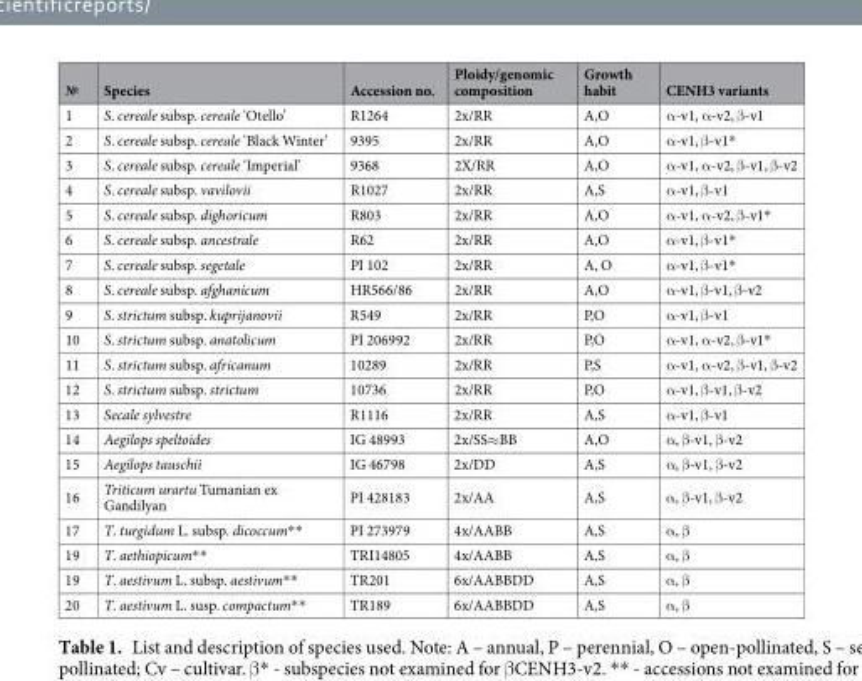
<table><thead><tr><td>№</td><td>Species</td><td>Accession no.</td><td>Ploidy/genomic composition</td><td>Growth habit</td><td>CENH3 variants</td></tr></thead><tbody><tr><td>1</td><td>S. cereale subsp. cereale ‘Otello’</td><td>R1264</td><td>2x/RR</td><td>A,O</td><td>α-v1, α-v2, β-v1</td></tr><tr><td>2</td><td>S. cereale subsp. cereale ‘Black Winter’</td><td>9395</td><td>2x/RR</td><td>A,O</td><td>α-v1, β-v1*</td></tr><tr><td>3</td><td>S. cereale subsp. cereale ‘Imperial’</td><td>9368</td><td>2X/RR</td><td>A,O</td><td>α-v1, α-v2, β-v1, β-v2</td></tr><tr><td>4</td><td>S. cereale subsp. vavilovii</td><td>R1027</td><td>2x/RR</td><td>A,S</td><td>α-v1, β-v1</td></tr><tr><td>5</td><td>S. cereale subsp. dighoricum</td><td>R803</td><td>2x/RR</td><td>A,O</td><td>α-v1, α-v2, β-v1*</td></tr><tr><td>6</td><td>S. cereale subsp. ancestrale</td><td>R62</td><td>2x/RR</td><td>A,O</td><td>α-v1, β-v1*</td></tr><tr><td>7</td><td>S. cereale subsp. segetale</td><td>PI 102</td><td>2x/RR</td><td>A, O</td><td>α-v1, β-v1*</td></tr><tr><td>8</td><td>S. cereale subsp. afghanicum</td><td>HR566/86</td><td>2x/RR</td><td>A,O</td><td>α-v1, β-v1, β-v2</td></tr><tr><td>9</td><td>S. strictum subsp. kuprijanovii</td><td>R549</td><td>2x/RR</td><td>P,O</td><td>α-v1, β-v1</td></tr><tr><td>10</td><td>S. strictum subsp. anatolicum</td><td>PI 206992</td><td>2x/RR</td><td>P,O</td><td>α-v1, α-v2, β-v1*</td></tr><tr><td>11</td><td>S. strictum subsp. africanum</td><td>10289</td><td>2x/RR</td><td>P,S</td><td>α-v1, α-v2, β-v1, β-v2</td></tr><tr><td>12</td><td>S. strictum subsp. strictum</td><td>10736</td><td>2x/RR</td><td>P,O</td><td>α-v1, β-v1, β-v2</td></tr><tr><td>13</td><td>Secale sylvestre</td><td>R1116</td><td>2x/RR</td><td>A,S</td><td>α-v1, β-v1</td></tr><tr><td>14</td><td>Aegilops speltoides</td><td>IG 48993</td><td>2x/SS≈BB</td><td>A,O</td><td>α, β-v1, β-v2</td></tr><tr><td>15</td><td>Aegilops tauschii</td><td>IG 46798</td><td>2x/DD</td><td>A,S</td><td>α, β-v1, β-v2</td></tr><tr><td>16</td><td>Triticum urartu Tumanian ex Gandilyan</td><td>PI 428183</td><td>2x/AA</td><td>A,S</td><td>α, β-v1, β-v2</td></tr><tr><td>17</td><td>T. turgidum L. subsp. dicoccum**</td><td>PI 273979</td><td>4x/AABB</td><td>A,S</td><td>α, β</td></tr><tr><td>19</td><td>T. aethiopicum**</td><td>TRI14805</td><td>4x/AABB</td><td>A,S</td><td>α, β</td></tr><tr><td>19</td><td>T. aestivum L. subsp. aestivum**</td><td>TR201</td><td>6x/AABBDD</td><td>A,S</td><td>α, β</td></tr><tr><td>20</td><td>T. aestivum L. susp. compactum**</td><td>TR189</td><td>6x/AABBDD</td><td>A,S</td><td>α, β</td></tr></tbody></table>